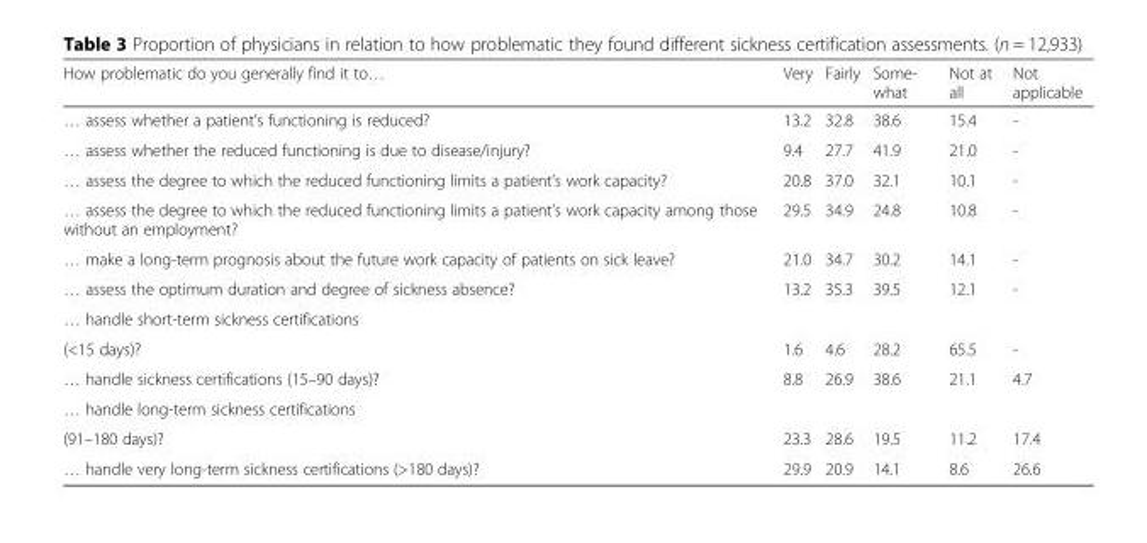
<table><thead><tr><td>How problematic do you generally find it to…</td><td>Very</td><td>Fairly</td><td>Some- what</td><td>Not at all</td><td>Not applicable</td></tr></thead><tbody><tr><td>… assess whether a patient’s functioning is reduced?</td><td>13.2</td><td>32.8</td><td>38.6</td><td>15.4</td><td>-</td></tr><tr><td>… assess whether the reduced functioning is due to disease/injury?</td><td>9.4</td><td>27.7</td><td>41.9</td><td>21.0</td><td>-</td></tr><tr><td>… assess the degree to which the reduced functioning limits a patient’s work capacity?</td><td>20.8</td><td>37.0</td><td>32.1</td><td>10.1</td><td>-</td></tr><tr><td>… assess the degree to which the reduced functioning limits a patient’s work capacity among those without an employment?</td><td>29.5</td><td>34.9</td><td>24.8</td><td>10.8</td><td>-</td></tr><tr><td>… make a long-term prognosis about the future work capacity of patients on sick leave?</td><td>21.0</td><td>34.7</td><td>30.2</td><td>14.1</td><td>-</td></tr><tr><td>… assess the optimum duration and degree of sickness absence?</td><td>13.2</td><td>35.3</td><td>39.5</td><td>12.1</td><td>-</td></tr><tr><td colspan="6">… handle short-term sickness certifications</td></tr><tr><td>(&lt;15 days)?</td><td>1.6</td><td>4.6</td><td>28.2</td><td>65.5</td><td>-</td></tr><tr><td>… handle sickness certifications (15–90 days)?</td><td>8.8</td><td>26.9</td><td>38.6</td><td>21.1</td><td>4.7</td></tr><tr><td colspan="6">… handle long-term sickness certifications</td></tr><tr><td>(91–180 days)?</td><td>23.3</td><td>28.6</td><td>19.5</td><td>11.2</td><td>17.4</td></tr><tr><td>… handle very long-term sickness certifications (&gt;180 days)?</td><td>29.9</td><td>20.9</td><td>14.1</td><td>8.6</td><td>26.6</td></tr></tbody></table>